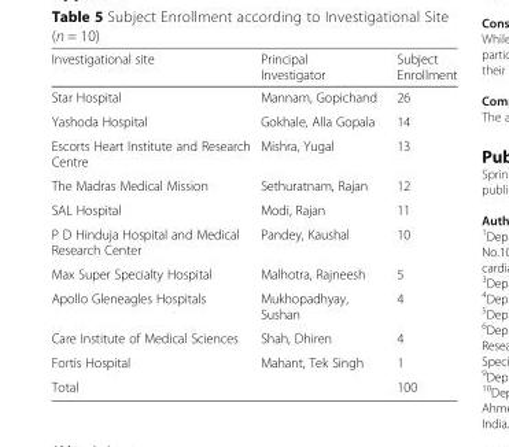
<table><thead><tr><td>Investigational site</td><td>Principal Investigator</td><td>Subject Enrollment</td></tr></thead><tbody><tr><td>Star Hospital</td><td>Mannam, Gopichand</td><td>26</td></tr><tr><td>Yashoda Hospital</td><td>Gokhale, Alla Gopala</td><td>14</td></tr><tr><td>Escorts Heart Institute and Research Centre</td><td>Mishra, Yugal</td><td>13</td></tr><tr><td>The Madras Medical Mission</td><td>Sethuratnam, Rajan</td><td>12</td></tr><tr><td>SAL Hospital</td><td>Modi, Rajan</td><td>11</td></tr><tr><td>P D Hinduja Hospital and Medical Research Center</td><td>Pandey, Kaushal</td><td>10</td></tr><tr><td>Max Super Specialty Hospital</td><td>Malhotra, Rajneesh</td><td>5</td></tr><tr><td>Apollo Gleneagles Hospitals</td><td>Mukhopadhyay, Sushan</td><td>4</td></tr><tr><td>Care Institute of Medical Sciences</td><td>Shah, Dhiren</td><td>4</td></tr><tr><td>Fortis Hospital</td><td>Mahant, Tek Singh</td><td>1</td></tr><tr><td colspan="2">Total</td><td>100</td></tr></tbody></table>